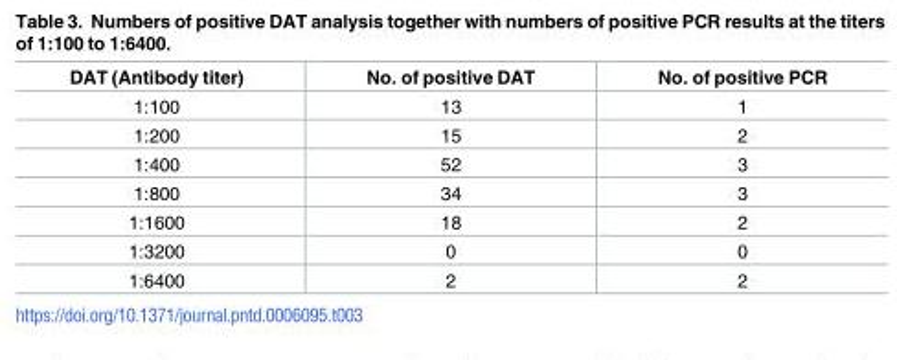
<table><thead><tr><td>DAT (Antibody titer)</td><td>No. of positive DAT</td><td>No. of positive PCR</td></tr></thead><tbody><tr><td>1:100</td><td>13</td><td>1</td></tr><tr><td>1:200</td><td>15</td><td>2</td></tr><tr><td>1:400</td><td>52</td><td>3</td></tr><tr><td>1:800</td><td>34</td><td>3</td></tr><tr><td>1:1600</td><td>18</td><td>2</td></tr><tr><td>1:3200</td><td>0</td><td>0</td></tr><tr><td>1:6400</td><td>2</td><td>2</td></tr></tbody></table>